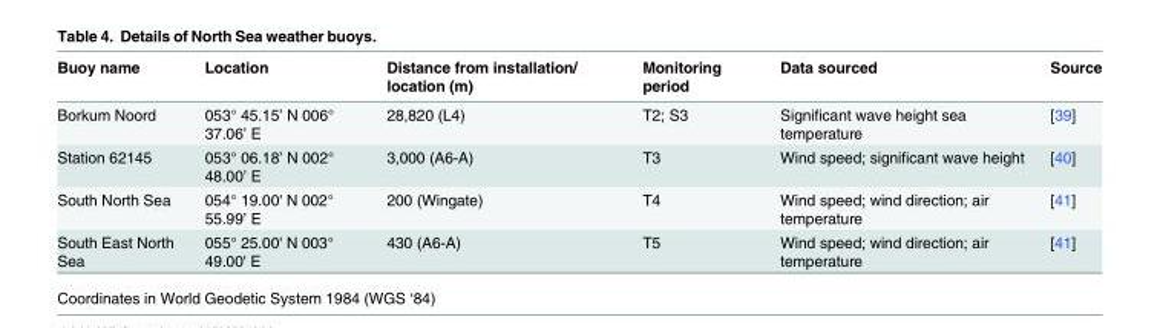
<table><thead><tr><td>Buoy name</td><td>Location</td><td>Distance from installation/ location (m)</td><td>Monitoring period</td><td>Data sourced</td><td>Source</td></tr></thead><tbody><tr><td>Borkum Noord</td><td>053° 45.15’ N 006° 37.06’ E</td><td>28,820 (L4)</td><td>T2; S3</td><td>Significant wave height sea temperature</td><td>[39]</td></tr><tr><td>Station 62145</td><td>053° 06.18’ N 002° 48.00’ E</td><td>3,000 (A6-A)</td><td>T3</td><td>Wind speed; significant wave height</td><td>[40]</td></tr><tr><td>South North Sea</td><td>054° 19.00&#x27; N 002° 55.99’ E</td><td>200 (Wingate)</td><td>T4</td><td>Wind speed; wind direction; air temperature</td><td>[41]</td></tr><tr><td>South East North Sea</td><td>055° 25.00&#x27; N 003° 49.00&#x27; E</td><td>430 (A6-A)</td><td>T5</td><td>Wind speed; wind direction; air temperature</td><td>[41]</td></tr></tbody></table>